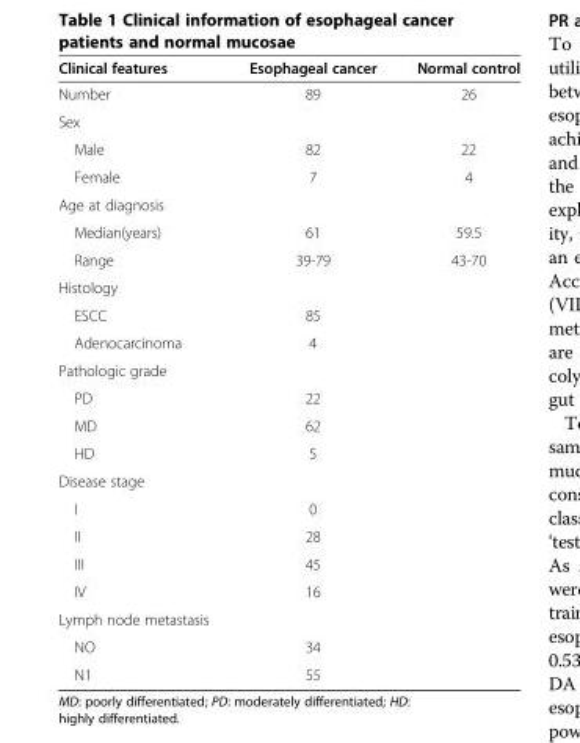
<table><thead><tr><td>Clinical features</td><td>Esophageal cancer</td><td>Normal control</td></tr></thead><tbody><tr><td>Number</td><td>89</td><td>26</td></tr><tr><td colspan="3">Sex</td></tr><tr><td>Male</td><td>82</td><td>22</td></tr><tr><td>Female</td><td>7</td><td>4</td></tr><tr><td colspan="3">Age at diagnosis</td></tr><tr><td>Median(years)</td><td>61</td><td>59.5</td></tr><tr><td>Range</td><td>39-79</td><td>43-70</td></tr><tr><td colspan="3">Histology</td></tr><tr><td>ESCC</td><td>85</td><td></td></tr><tr><td>Adenocarcinoma</td><td>4</td><td></td></tr><tr><td colspan="3">Pathologic grade</td></tr><tr><td>PD</td><td>22</td><td></td></tr><tr><td>MD</td><td>62</td><td></td></tr><tr><td>HD</td><td>5</td><td></td></tr><tr><td colspan="3">Disease stage</td></tr><tr><td>I</td><td>0</td><td></td></tr><tr><td>II</td><td>28</td><td></td></tr><tr><td>III</td><td>45</td><td></td></tr><tr><td>IV</td><td>16</td><td></td></tr><tr><td colspan="3">Lymph node metastasis</td></tr><tr><td>NO</td><td>34</td><td></td></tr><tr><td>N1</td><td>55</td><td></td></tr></tbody></table>